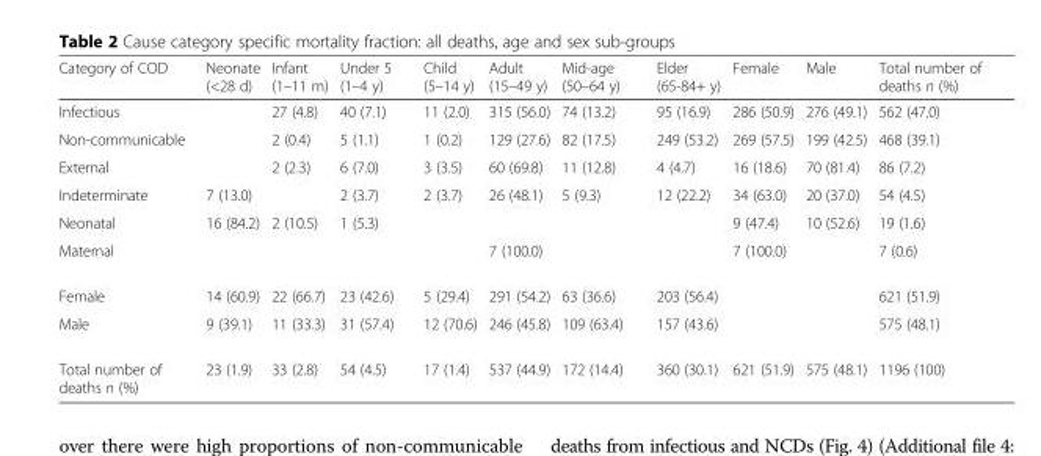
<table><thead><tr><td>Category of COD</td><td>Neonate (&lt;28 d)</td><td>Infant (1–11 m)</td><td>Under 5 (1–4 y)</td><td>Child (5–14 y)</td><td>Adult (15–49 y)</td><td>Mid-age (50–64 y)</td><td>Elder (65-84+ y)</td><td>Female</td><td>Male</td><td>Total number of deaths n (%)</td></tr></thead><tbody><tr><td>Infectious</td><td></td><td>27 (4.8)</td><td>40 (7.1)</td><td>11 (2.0)</td><td>315 (56.0)</td><td>74 (13.2)</td><td>95 (16.9)</td><td>286 (50.9)</td><td>276 (49.1)</td><td>562 (47.0)</td></tr><tr><td>Non-communicable</td><td></td><td>2 (0.4)</td><td>5 (1.1)</td><td>1 (0.2)</td><td>129 (27.6)</td><td>82 (17.5)</td><td>249 (53.2)</td><td>269 (57.5)</td><td>199 (42.5)</td><td>468 (39.1)</td></tr><tr><td>External</td><td></td><td>2 (2.3)</td><td>6 (7.0)</td><td>3 (3.5)</td><td>60 (69.8)</td><td>11 (12.8)</td><td>4 (4.7)</td><td>16 (18.6)</td><td>70 (81.4)</td><td>86 (7.2)</td></tr><tr><td>Indeterminate</td><td>7 (13.0)</td><td></td><td>2 (3.7)</td><td>2 (3.7)</td><td>26 (48.1)</td><td>5 (9.3)</td><td>12 (22.2)</td><td>34 (63.0)</td><td>20 (37.0)</td><td>54 (4.5)</td></tr><tr><td>Neonatal</td><td>16 (84.2)</td><td>2 (10.5)</td><td>1 (5.3)</td><td></td><td></td><td></td><td></td><td>9 (47.4)</td><td>10 (52.6)</td><td>19 (1.6)</td></tr><tr><td>Maternal</td><td></td><td></td><td></td><td></td><td>7 (100.0)</td><td></td><td></td><td>7 (100.0)</td><td></td><td>7 (0.6)</td></tr><tr><td>Female</td><td>14 (60.9)</td><td>22 (66.7)</td><td>23 (42.6)</td><td>5 (29.4)</td><td>291 (54.2)</td><td>63 (36.6)</td><td>203 (56.4)</td><td></td><td></td><td>621 (51.9)</td></tr><tr><td>Male</td><td>9 (39.1)</td><td>11 (33.3)</td><td>31 (57.4)</td><td>12 (70.6)</td><td>246 (45.8)</td><td>109 (63.4)</td><td>157 (43.6)</td><td></td><td></td><td>575 (48.1)</td></tr><tr><td>Total number of deaths n (%)</td><td>23 (1.9)</td><td>33 (2.8)</td><td>54 (4.5)</td><td>17 (1.4)</td><td>537 (44.9)</td><td>172 (14.4)</td><td>360 (30.1)</td><td>621 (51.9)</td><td>575 (48.1)</td><td>1196 (100)</td></tr></tbody></table>